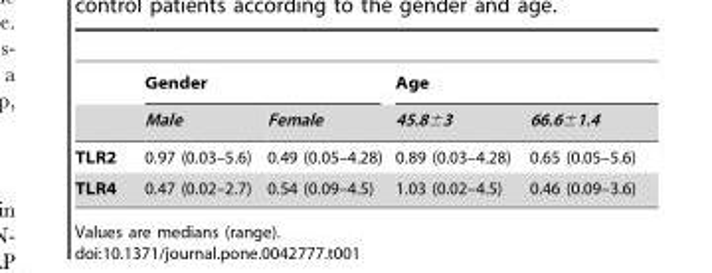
<table><thead><tr><td rowspan="2"></td><td colspan="2">Gender</td><td colspan="2">Age</td></tr><tr><td>Male</td><td>Female</td><td>45.8±3</td><td>66.6±1.4</td></tr></thead><tbody><tr><td>TLR2</td><td>0.97 (0.03–5.6)</td><td>0.49 (0.05–4.28)</td><td>0.89 (0.03–4.28)</td><td>0.65 (0.05–5.6)</td></tr><tr><td>TLR4</td><td>0.47 (0.02–2.7)</td><td>0.54 (0.09–4.5)</td><td>1.03 (0.02–4.5)</td><td>0.46 (0.09–3.6)</td></tr></tbody></table>